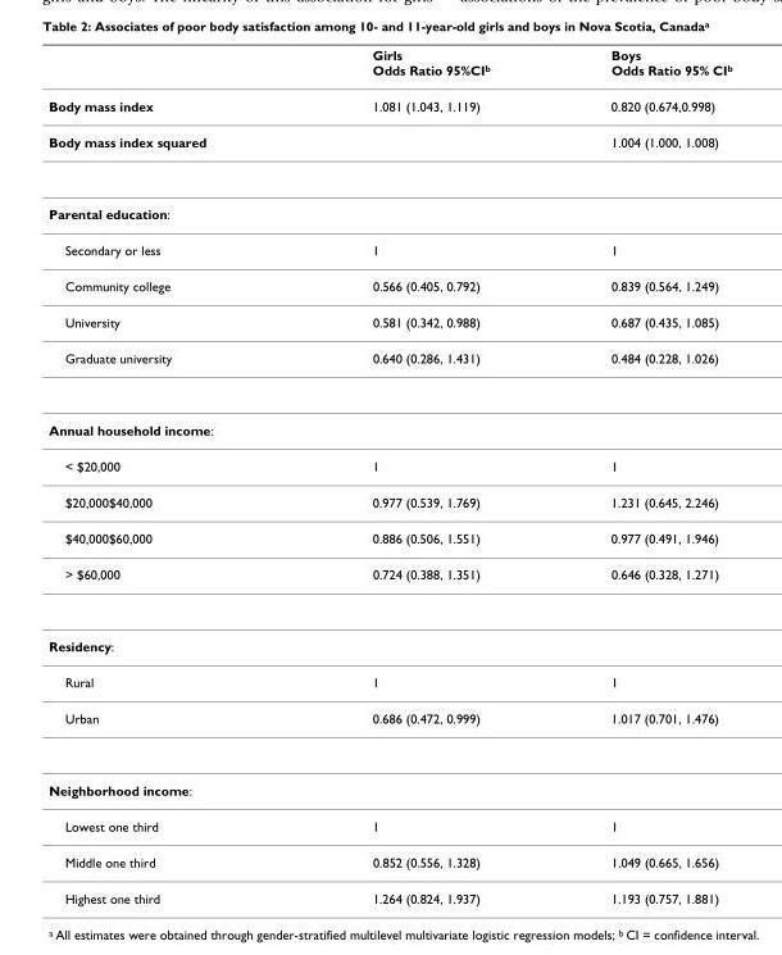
<table><thead><tr><td></td><td>Girls Odds Ratio 95%CIb</td><td>Boys Odds Ratio 95% CIb</td></tr></thead><tbody><tr><td>Body mass index</td><td>1.081 (1.043, 1.119)</td><td>0.820 (0.674,0.998)</td></tr><tr><td>Body mass index squared</td><td></td><td>1.004 (1.000, 1.008)</td></tr><tr><td colspan="3">Parental education:</td></tr><tr><td>Secondary or less</td><td>1</td><td>1</td></tr><tr><td>Community college</td><td>0.566 (0.405, 0.792)</td><td>0.839 (0.564, 1.249)</td></tr><tr><td>University</td><td>0.581 (0.342, 0.988)</td><td>0.687 (0.435, 1.085)</td></tr><tr><td>Graduate university</td><td>0.640 (0.286, 1.431)</td><td>0.484 (0.228, 1.026)</td></tr><tr><td colspan="3">Annual household income:</td></tr><tr><td>&lt; $20,000</td><td>1</td><td>1</td></tr><tr><td>$20,000$40,000</td><td>0.977 (0.539, 1.769)</td><td>1.231 (0.645, 2.246)</td></tr><tr><td>$40,000$60,000</td><td>0.886 (0.506, 1.551)</td><td>0.977 (0.491, 1.946)</td></tr><tr><td>&gt; $60,000</td><td>0.724 (0.388, 1.351)</td><td>0.646 (0.328, 1.271)</td></tr><tr><td colspan="3">Residency:</td></tr><tr><td>Rural</td><td>1</td><td>1</td></tr><tr><td>Urban</td><td>0.686 (0.472, 0.999)</td><td>1.017 (0.701, 1.476)</td></tr><tr><td colspan="3">Neighborhood income:</td></tr><tr><td>Lowest one third</td><td>1</td><td>1</td></tr><tr><td>Middle one third</td><td>0.852 (0.556, 1.328)</td><td>1.049 (0.665, 1.656)</td></tr><tr><td>Highest one third</td><td>1.264 (0.824, 1.937)</td><td>1.193 (0.757, 1.881)</td></tr></tbody></table>